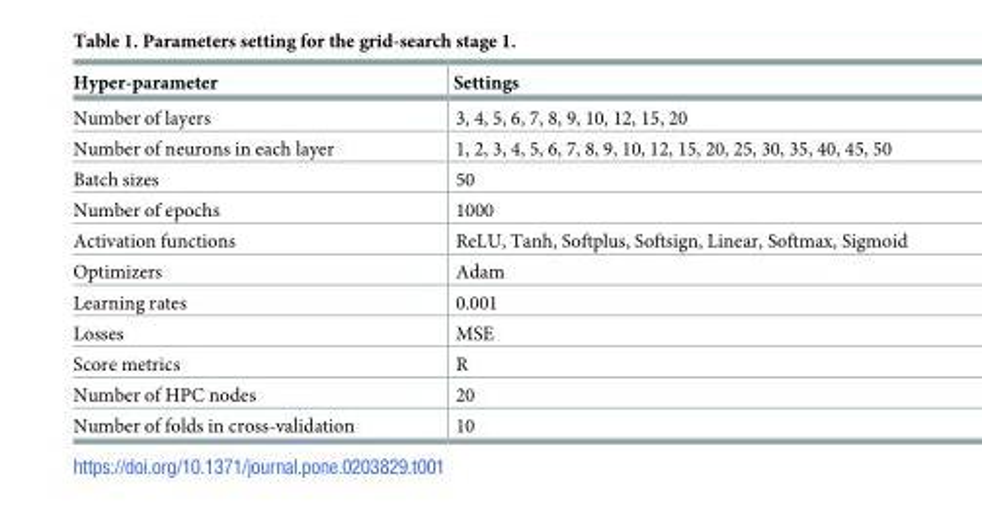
<table><thead><tr><td>Hyper-parameter</td><td>Settings</td></tr></thead><tbody><tr><td>Number of layers</td><td>3, 4, 5, 6, 7, 8, 9, 10, 12, 15, 20</td></tr><tr><td>Number of neurons in each layer</td><td>1, 2, 3, 4, 5, 6, 7, 8, 9, 10, 12, 15, 20, 25, 30, 35, 40, 45, 50</td></tr><tr><td>Batch sizes</td><td>50</td></tr><tr><td>Number of epochs</td><td>1000</td></tr><tr><td>Activation functions</td><td>ReLU, Tanh, Softplus, Softsign, Linear, Softmax, Sigmoid</td></tr><tr><td>Optimizers</td><td>Adam</td></tr><tr><td>Learning rates</td><td>0.001</td></tr><tr><td>Losses</td><td>MSE</td></tr><tr><td>Score metrics</td><td>R</td></tr><tr><td>Number of HPC nodes</td><td>20</td></tr><tr><td>Number of folds in cross-validation</td><td>10</td></tr></tbody></table>